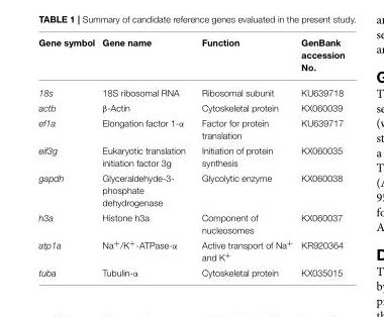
<table><thead><tr><td>Gene symbol</td><td>Gene name</td><td>Function</td><td>GenBank accession No.</td></tr></thead><tbody><tr><td>18s</td><td>18S ribosomal RNA</td><td>Ribosomal subunit</td><td>KU639718</td></tr><tr><td>actb</td><td>β-Actin</td><td>Cytoskeletal protein</td><td>KX060039</td></tr><tr><td>ef1a</td><td>Elongation factor 1-α</td><td>Factor for protein translation</td><td>KU639717</td></tr><tr><td>eif3g</td><td>Eukaryotic translation initiation factor 3g</td><td>Initiation of protein synthesis</td><td>KX060035</td></tr><tr><td>gapdh</td><td>Glyceraldehyde-3- phosphate dehydrogenase</td><td>Glycolytic enzyme</td><td>KX060038</td></tr><tr><td>h3a</td><td>Histone h3a</td><td>Component of nucleosomes</td><td>KX060037</td></tr><tr><td>atp1a</td><td>Na<sup>+</sup>/K<sup>+</sup>-ATPase-α</td><td>Active transport of Na<sup>+</sup> and K<sup>+</sup></td><td>KR920364</td></tr><tr><td>tuba</td><td>Tubulin-α</td><td>Cytoskeletal protein</td><td>KX035015</td></tr></tbody></table>